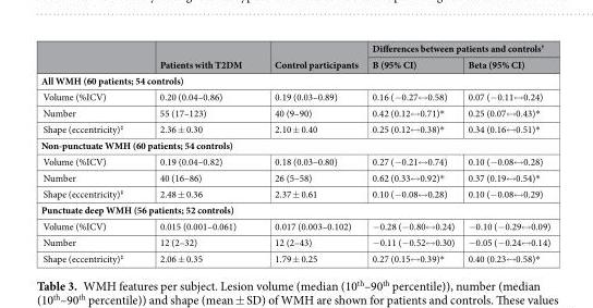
<table><thead><tr><td rowspan="2"></td><td rowspan="2">Patients with T2DM</td><td rowspan="2">Control participants</td><td colspan="2">Differences between patients and controls<sup>†</sup></td></tr><tr><td>B (95% CI)</td><td>Beta (95% CI)</td></tr></thead><tbody><tr><td colspan="5">All WMH (60 patients; 54 controls)</td></tr><tr><td>Volume (%ICV)</td><td>0.20 (0.04–0.86)</td><td>0.19 (0.03–0.89)</td><td>0.16 (−0.27↔0.58)</td><td>0.07 (−0.11↔0.24)</td></tr><tr><td>Number</td><td>55 (17–123)</td><td>40 (9–90)</td><td>0.42 (0.12↔0.71)*</td><td>0.25 (0.07↔0.43)*</td></tr><tr><td>Shape (eccentricity)<sup>‡</sup></td><td>2.36 ± 0.30</td><td>2.10 ± 0.40</td><td>0.25 (0.12↔0.38)*</td><td>0.34 (0.16↔0.51)*</td></tr><tr><td colspan="5">Non-punctuate WMH (60 patients; 54 controls)</td></tr><tr><td>Volume (%ICV)</td><td>0.19 (0.04–0.82)</td><td>0.18 (0.03–0.80)</td><td>0.27 (−0.21↔0.74)</td><td>0.10 (−0.08↔0.28)</td></tr><tr><td>Number</td><td>40 (16–86)</td><td>26 (5–58)</td><td>0.62 (0.33↔0.92)*</td><td>0.37 (0.19↔0.54)*</td></tr><tr><td>Shape (eccentricity)<sup>‡</sup></td><td>2.48 ± 0.36</td><td>2.37 ± 0.61</td><td>0.10 (−0.08↔0.28)</td><td>0.10 (−0.08↔0.29)</td></tr><tr><td colspan="5">Punctuate deep WMH (56 patients; 52 controls)</td></tr><tr><td>Volume (%ICV)</td><td>0.015 (0.001–0.061)</td><td>0.017 (0.003–0.102)</td><td>−0.28 (−0.80↔0.24)</td><td>−0.10 (−0.29↔0.09)</td></tr><tr><td>Number</td><td>12 (2–32)</td><td>12 (2–43)</td><td>−0.11 (−0.52↔0.30)</td><td>−0.05 (−0.24↔0.14)</td></tr><tr><td>Shape (eccentricity)<sup>‡</sup></td><td>2.06 ± 0.35</td><td>1.79 ± 0.25</td><td>0.27 (0.15↔0.39)*</td><td>0.40 (0.23↔0.58)*</td></tr></tbody></table>